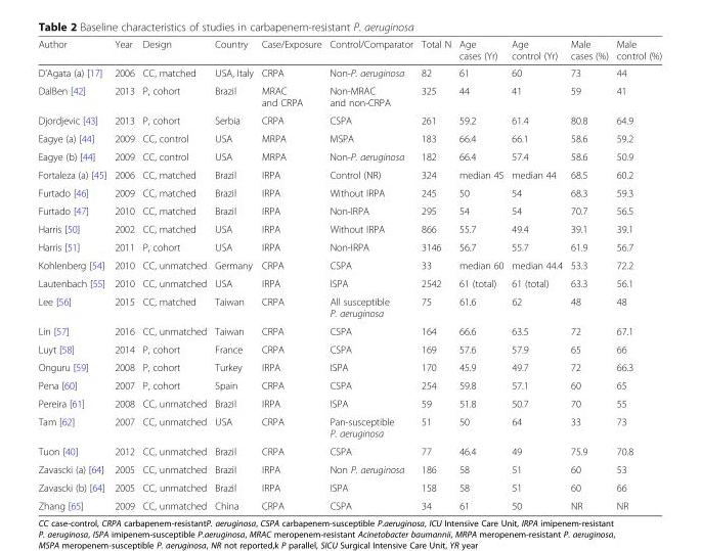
<table><thead><tr><td>Author</td><td>Year</td><td>Design</td><td>Country</td><td>Case/Exposure</td><td>Control/Comparator</td><td>Total N</td><td>Age cases (Yr)</td><td>Age control (Yr)</td><td>Male cases (%)</td><td>Male control (%)</td></tr></thead><tbody><tr><td>D’Agata (a) [17]</td><td>2006</td><td>CC, matched</td><td>USA, Italy</td><td>CRPA</td><td>Non-P. aeruginosa</td><td>82</td><td>61</td><td>60</td><td>73</td><td>44</td></tr><tr><td>DalBen [42]</td><td>2013</td><td>P, cohort</td><td>Brazil</td><td>MRAC and CRPA</td><td>Non-MRAC and non-CRPA</td><td>325</td><td>44</td><td>41</td><td>59</td><td>41</td></tr><tr><td>Djordjevic [43]</td><td>2013</td><td>P, cohort</td><td>Serbia</td><td>CRPA</td><td>CSPA</td><td>261</td><td>59.2</td><td>61.4</td><td>80.8</td><td>64.9</td></tr><tr><td>Eagye (a) [44]</td><td>2009</td><td>CC, control</td><td>USA</td><td>MRPA</td><td>MSPA</td><td>183</td><td>66.4</td><td>66.1</td><td>58.6</td><td>59.2</td></tr><tr><td>Eagye (b) [44]</td><td>2009</td><td>CC, control</td><td>USA</td><td>MRPA</td><td>Non-P. aeruginosa</td><td>182</td><td>66.4</td><td>57.4</td><td>58.6</td><td>50.9</td></tr><tr><td>Fortaleza (a) [45]</td><td>2006</td><td>CC, matched</td><td>Brazil</td><td>IRPA</td><td>Control (NR)</td><td>324</td><td>median 45</td><td>median 44</td><td>68.5</td><td>60.2</td></tr><tr><td>Furtado [46]</td><td>2009</td><td>CC, matched</td><td>Brazil</td><td>IRPA</td><td>Without IRPA</td><td>245</td><td>50</td><td>54</td><td>68.3</td><td>59.3</td></tr><tr><td>Furtado [47]</td><td>2010</td><td>CC, matched</td><td>Brazil</td><td>IRPA</td><td>Non-IRPA</td><td>295</td><td>54</td><td>54</td><td>70.7</td><td>56.5</td></tr><tr><td>Harris [50]</td><td>2002</td><td>CC, matched</td><td>USA</td><td>IRPA</td><td>Without IRPA</td><td>866</td><td>55.7</td><td>49.4</td><td>39.1</td><td>39.1</td></tr><tr><td>Harris [51]</td><td>2011</td><td>P, cohort</td><td>USA</td><td>IRPA</td><td>Non-IRPA</td><td>3146</td><td>56.7</td><td>55.7</td><td>61.9</td><td>56.7</td></tr><tr><td>Kohlenberg [54]</td><td>2010</td><td>CC, unmatched</td><td>Germany</td><td>CRPA</td><td>CSPA</td><td>33</td><td>median 60</td><td>median 44.4</td><td>53.3</td><td>72.2</td></tr><tr><td>Lautenbach [55]</td><td>2010</td><td>CC, unmatched</td><td>USA</td><td>IRPA</td><td>ISPA</td><td>2542</td><td>61 (total)</td><td>61 (total)</td><td>63.3</td><td>56.1</td></tr><tr><td>Lee [56]</td><td>2015</td><td>CC, matched</td><td>Taiwan</td><td>CRPA</td><td>All susceptible P. aeruginosa</td><td>75</td><td>61.6</td><td>62</td><td>48</td><td>48</td></tr><tr><td>Lin [57]</td><td>2016</td><td>CC, unmatched</td><td>Taiwan</td><td>CRPA</td><td>CSPA</td><td>164</td><td>66.6</td><td>63.5</td><td>72</td><td>67.1</td></tr><tr><td>Luyt [58]</td><td>2014</td><td>P, cohort</td><td>France</td><td>CRPA</td><td>CSPA</td><td>169</td><td>57.6</td><td>57.9</td><td>65</td><td>66</td></tr><tr><td>Onguru [59]</td><td>2008</td><td>P, cohort</td><td>Turkey</td><td>IRPA</td><td>ISPA</td><td>170</td><td>45.9</td><td>49.7</td><td>72</td><td>66.3</td></tr><tr><td>Pena [60]</td><td>2007</td><td>P, cohort</td><td>Spain</td><td>CRPA</td><td>CSPA</td><td>254</td><td>59.8</td><td>57.1</td><td>60</td><td>65</td></tr><tr><td>Pereira [61]</td><td>2008</td><td>CC, unmatched</td><td>Brazil</td><td>IRPA</td><td>ISPA</td><td>59</td><td>51.8</td><td>50.7</td><td>70</td><td>55</td></tr><tr><td>Tam [62]</td><td>2007</td><td>CC, unmatched</td><td>USA</td><td>CRPA</td><td>Pan-susceptible P. aeruginosa</td><td>51</td><td>50</td><td>64</td><td>33</td><td>73</td></tr><tr><td>Tuon [40]</td><td>2012</td><td>CC, unmatched</td><td>Brazil</td><td>CRPA</td><td>CSPA</td><td>77</td><td>46.4</td><td>49</td><td>75.9</td><td>70.8</td></tr><tr><td>Zavascki (a) [64]</td><td>2005</td><td>CC, unmatched</td><td>Brazil</td><td>IRPA</td><td>Non P. aeruginosa</td><td>186</td><td>58</td><td>51</td><td>60</td><td>53</td></tr><tr><td>Zavascki (b) [64]</td><td>2005</td><td>CC, unmatched</td><td>Brazil</td><td>IRPA</td><td>ISPA</td><td>158</td><td>58</td><td>51</td><td>60</td><td>66</td></tr><tr><td>Zhang [65]</td><td>2009</td><td>CC, unmatched</td><td>China</td><td>CRPA</td><td>CSPA</td><td>34</td><td>61</td><td>50</td><td>NR</td><td>NR</td></tr></tbody></table>